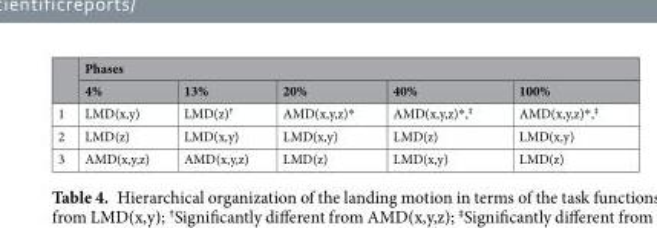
<table><thead><tr><td rowspan="2"></td><td colspan="5">Phases</td></tr><tr><td>4%</td><td>13%</td><td>20%</td><td>40%</td><td>100%</td></tr></thead><tbody><tr><td>1</td><td>LMD(x,y)</td><td>LMD(z)<sup>†</sup></td><td>AMD(x,y,z)*</td><td>AMD(x,y,z)*,<sup>‡</sup></td><td>AMD(x,y,z)*,<sup>‡</sup></td></tr><tr><td>2</td><td>LMD(z)</td><td>LMD(x,y)</td><td>LMD(x,y)</td><td>LMD(z)</td><td>LMD(x,y)</td></tr><tr><td>3</td><td>AMD(x,y,z)</td><td>AMD(x,y,z)</td><td>LMD(z)</td><td>LMD(x,y)</td><td>LMD(z)</td></tr></tbody></table>